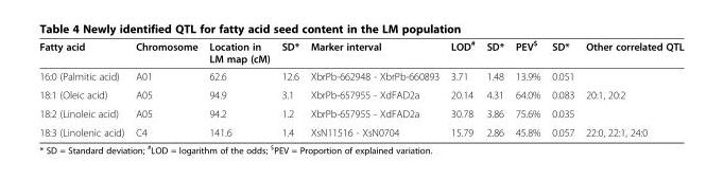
<table><thead><tr><td>Fatty acid</td><td>Chromosome</td><td>Location in LM map (cM)</td><td>SD*</td><td>Marker interval</td><td>LOD<sup>#</sup></td><td>SD*</td><td>PEV<sup>$</sup></td><td>SD*</td><td>Other correlated QTL</td></tr></thead><tbody><tr><td>16:0 (Palmitic acid)</td><td>A01</td><td>62.6</td><td>12.6</td><td>XbrPb-662948 - XbrPb-660893</td><td>3.71</td><td>1.48</td><td>13.9%</td><td>0.051</td><td></td></tr><tr><td>18:1 (Oleic acid)</td><td>A05</td><td>94.9</td><td>3.1</td><td>XbrPb-657955 - XdFAD2a</td><td>20.14</td><td>4.31</td><td>64.0%</td><td>0.083</td><td>20:1, 20:2</td></tr><tr><td>18:2 (Linoleic acid)</td><td>A05</td><td>94.2</td><td>1.2</td><td>XbrPb-657955 - XdFAD2a</td><td>30.78</td><td>3.86</td><td>75.6%</td><td>0.035</td><td></td></tr><tr><td>18:3 (Linolenic acid)</td><td>C4</td><td>141.6</td><td>1.4</td><td>XsN11516 - XsN0704</td><td>15.79</td><td>2.86</td><td>45.8%</td><td>0.057</td><td>22:0, 22:1, 24:0</td></tr></tbody></table>